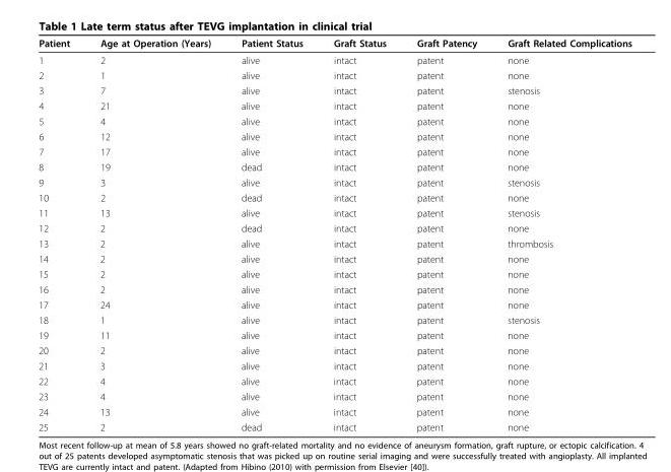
<table><thead><tr><td>Patient</td><td>Age at Operation (Years)</td><td>Patient Status</td><td>Graft Status</td><td>Graft Patency</td><td>Graft Related Complications</td></tr></thead><tbody><tr><td>1</td><td>2</td><td>alive</td><td>intact</td><td>patent</td><td>none</td></tr><tr><td>2</td><td>1</td><td>alive</td><td>intact</td><td>patent</td><td>none</td></tr><tr><td>3</td><td>7</td><td>alive</td><td>intact</td><td>patent</td><td>stenosis</td></tr><tr><td>4</td><td>21</td><td>alive</td><td>intact</td><td>patent</td><td>none</td></tr><tr><td>5</td><td>4</td><td>alive</td><td>intact</td><td>patent</td><td>none</td></tr><tr><td>6</td><td>12</td><td>alive</td><td>intact</td><td>patent</td><td>none</td></tr><tr><td>7</td><td>17</td><td>alive</td><td>intact</td><td>patent</td><td>none</td></tr><tr><td>8</td><td>19</td><td>dead</td><td>intact</td><td>patent</td><td>none</td></tr><tr><td>9</td><td>3</td><td>alive</td><td>intact</td><td>patent</td><td>stenosis</td></tr><tr><td>10</td><td>2</td><td>dead</td><td>intact</td><td>patent</td><td>none</td></tr><tr><td>11</td><td>13</td><td>alive</td><td>intact</td><td>patent</td><td>stenosis</td></tr><tr><td>12</td><td>2</td><td>dead</td><td>intact</td><td>patent</td><td>none</td></tr><tr><td>13</td><td>2</td><td>alive</td><td>intact</td><td>patent</td><td>thrombosis</td></tr><tr><td>14</td><td>2</td><td>alive</td><td>intact</td><td>patent</td><td>none</td></tr><tr><td>15</td><td>2</td><td>alive</td><td>intact</td><td>patent</td><td>none</td></tr><tr><td>16</td><td>2</td><td>alive</td><td>intact</td><td>patent</td><td>none</td></tr><tr><td>17</td><td>24</td><td>alive</td><td>intact</td><td>patent</td><td>none</td></tr><tr><td>18</td><td>1</td><td>alive</td><td>intact</td><td>patent</td><td>stenosis</td></tr><tr><td>19</td><td>11</td><td>alive</td><td>intact</td><td>patent</td><td>none</td></tr><tr><td>20</td><td>2</td><td>alive</td><td>intact</td><td>patent</td><td>none</td></tr><tr><td>21</td><td>3</td><td>alive</td><td>intact</td><td>patent</td><td>none</td></tr><tr><td>22</td><td>4</td><td>alive</td><td>intact</td><td>patent</td><td>none</td></tr><tr><td>23</td><td>4</td><td>alive</td><td>intact</td><td>patent</td><td>none</td></tr><tr><td>24</td><td>13</td><td>alive</td><td>intact</td><td>patent</td><td>none</td></tr><tr><td>25</td><td>2</td><td>dead</td><td>intact</td><td>patent</td><td>none</td></tr></tbody></table>